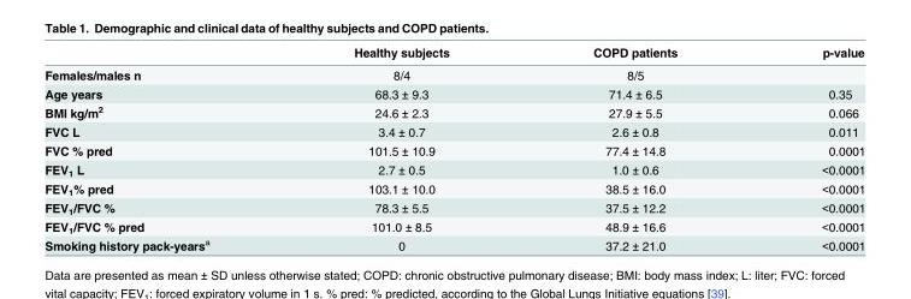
<table><thead><tr><td></td><td>Healthy subjects</td><td>COPD patients</td><td>p-value</td></tr></thead><tbody><tr><td>Females/males n</td><td>8/4</td><td>8/5</td><td></td></tr><tr><td>Age years</td><td>68.3 ± 9.3</td><td>71.4 ± 6.5</td><td>0.35</td></tr><tr><td>BMI kg/m<sup>2</sup></td><td>24.6 ± 2.3</td><td>27.9 ± 5.5</td><td>0.066</td></tr><tr><td>FVC L</td><td>3.4 ± 0.7</td><td>2.6 ± 0.8</td><td>0.011</td></tr><tr><td>FVC % pred</td><td>101.5 ± 10.9</td><td>77.4 ± 14.8</td><td>0.0001</td></tr><tr><td>FEV<sub>1</sub> L</td><td>2.7 ± 0.5</td><td>1.0 ± 0.6</td><td>&lt;0.0001</td></tr><tr><td>FEV<sub>1</sub>% pred</td><td>103.1 ± 10.0</td><td>38.5 ± 16.0</td><td>&lt;0.0001</td></tr><tr><td>FEV<sub>1</sub>/FVC %</td><td>78.3 ± 5.5</td><td>37.5 ± 12.2</td><td>&lt;0.0001</td></tr><tr><td>FEV<sub>1</sub>/FVC % pred</td><td>101.0 ± 8.5</td><td>48.9 ± 16.6</td><td>&lt;0.0001</td></tr><tr><td>Smoking history pack-years<sup>a</sup></td><td>0</td><td>37.2 ± 21.0</td><td>&lt;0.0001</td></tr></tbody></table>